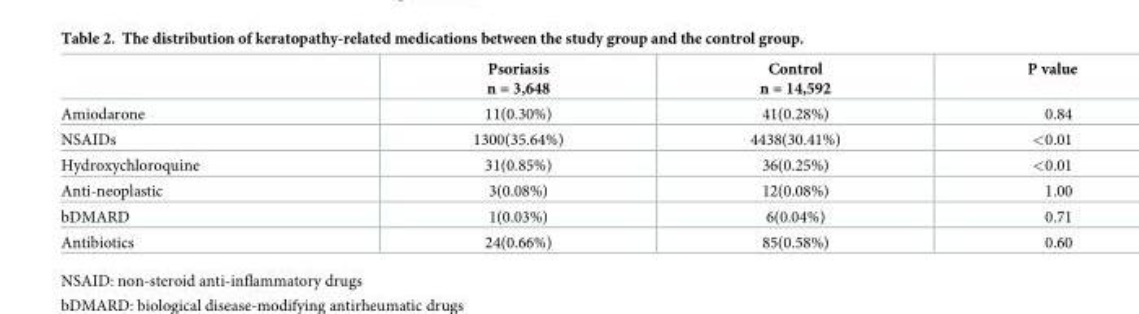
<table><thead><tr><td></td><td>Psoriasis n = 3,648</td><td>Control n = 14,592</td><td>P value</td></tr></thead><tbody><tr><td>Amiodarone</td><td>11(0.30%)</td><td>41(0.28%)</td><td>0.84</td></tr><tr><td>NSAIDs</td><td>1300(35.64%)</td><td>4438(30.41%)</td><td>&lt;0.01</td></tr><tr><td>Hydroxychloroquine</td><td>31(0.85%)</td><td>36(0.25%)</td><td>&lt;0.01</td></tr><tr><td>Anti-neoplastic</td><td>3(0.08%)</td><td>12(0.08%)</td><td>1.00</td></tr><tr><td>bDMARD</td><td>1(0.03%)</td><td>6(0.04%)</td><td>0.71</td></tr><tr><td>Antibiotics</td><td>24(0.66%)</td><td>85(0.58%)</td><td>0.60</td></tr></tbody></table>